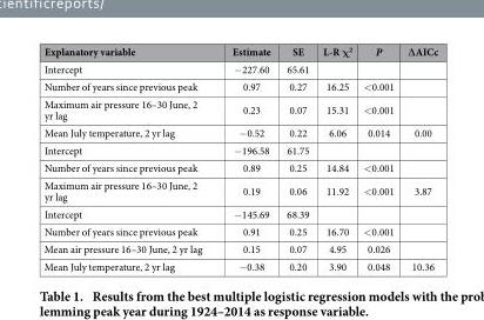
<table><thead><tr><td>Explanatory variable</td><td>Estimate</td><td>SE</td><td>L-R χ<sup>2</sup></td><td>P</td><td>∆AICc</td></tr></thead><tbody><tr><td>Intercept</td><td>−227.60</td><td>65.61</td><td></td><td></td><td></td></tr><tr><td>Number of years since previous peak</td><td>0.97</td><td>0.27</td><td>16.25</td><td>&lt;0.001</td><td></td></tr><tr><td>Maximum air pressure 16–30 June, 2 yr lag</td><td>0.23</td><td>0.07</td><td>15.31</td><td>&lt;0.001</td><td></td></tr><tr><td>Mean July temperature, 2 yr lag</td><td>−0.52</td><td>0.22</td><td>6.06</td><td>0.014</td><td>0.00</td></tr><tr><td>Intercept</td><td>−196.58</td><td>61.75</td><td></td><td></td><td></td></tr><tr><td>Number of years since previous peak</td><td>0.89</td><td>0.25</td><td>14.84</td><td>&lt;0.001</td><td></td></tr><tr><td>Maximum air pressure 16–30 June, 2 yr lag</td><td>0.19</td><td>0.06</td><td>11.92</td><td>&lt;0.001</td><td>3.87</td></tr><tr><td>Intercept</td><td>−145.69</td><td>68.39</td><td></td><td></td><td></td></tr><tr><td>Number of years since previous peak</td><td>0.91</td><td>0.25</td><td>16.70</td><td>&lt;0.001</td><td></td></tr><tr><td>Mean air pressure 16–30 June, 2 yr lag</td><td>0.15</td><td>0.07</td><td>4.95</td><td>0.026</td><td></td></tr><tr><td>Mean July temperature, 2 yr lag</td><td>−0.38</td><td>0.20</td><td>3.90</td><td>0.048</td><td>10.36</td></tr></tbody></table>